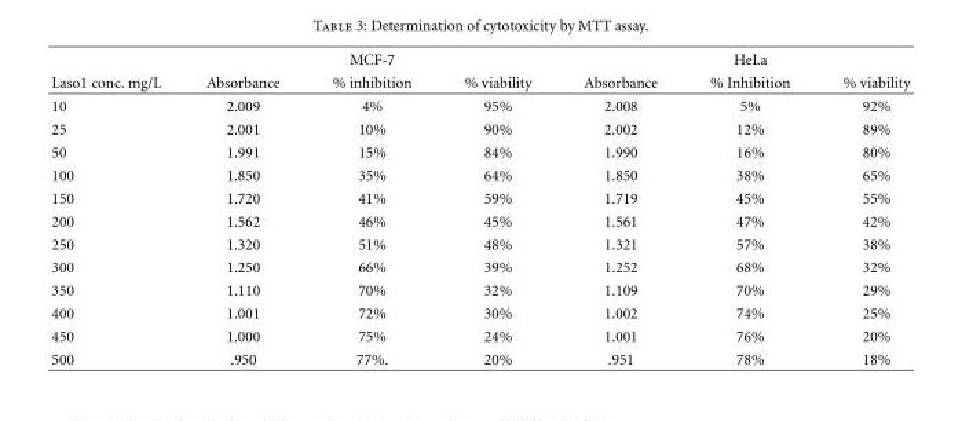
<table><thead><tr><td rowspan="2">Laso1 conc. mg/L</td><td rowspan="2">Absorbance</td><td rowspan="2">MCF-7 % inhibition</td><td rowspan="2">% viability</td><td rowspan="2">Absorbance</td><td rowspan="2">HeLa % Inhibition</td><td rowspan="2">% viability</td></tr><tr></tr></thead><tbody><tr><td>10</td><td>2.009</td><td>4%</td><td>95%</td><td>2.008</td><td>5%</td><td>92%</td></tr><tr><td>25</td><td>2.001</td><td>10%</td><td>90%</td><td>2.002</td><td>12%</td><td>89%</td></tr><tr><td>50</td><td>1.991</td><td>15%</td><td>84%</td><td>1.990</td><td>16%</td><td>80%</td></tr><tr><td>100</td><td>1.850</td><td>35%</td><td>64%</td><td>1.850</td><td>38%</td><td>65%</td></tr><tr><td>150</td><td>1.720</td><td>41%</td><td>59%</td><td>1.719</td><td>45%</td><td>55%</td></tr><tr><td>200</td><td>1.562</td><td>46%</td><td>45%</td><td>1.561</td><td>47%</td><td>42%</td></tr><tr><td>250</td><td>1.320</td><td>51%</td><td>48%</td><td>1.321</td><td>57%</td><td>38%</td></tr><tr><td>300</td><td>1.250</td><td>66%</td><td>39%</td><td>1.252</td><td>68%</td><td>32%</td></tr><tr><td>350</td><td>1.110</td><td>70%</td><td>32%</td><td>1.109</td><td>70%</td><td>29%</td></tr><tr><td>400</td><td>1.001</td><td>72%</td><td>30%</td><td>1.002</td><td>74%</td><td>25%</td></tr><tr><td>450</td><td>1.000</td><td>75%</td><td>24%</td><td>1.001</td><td>76%</td><td>20%</td></tr><tr><td>500</td><td>.950</td><td>77%.</td><td>20%</td><td>.951</td><td>78%</td><td>18%</td></tr></tbody></table>